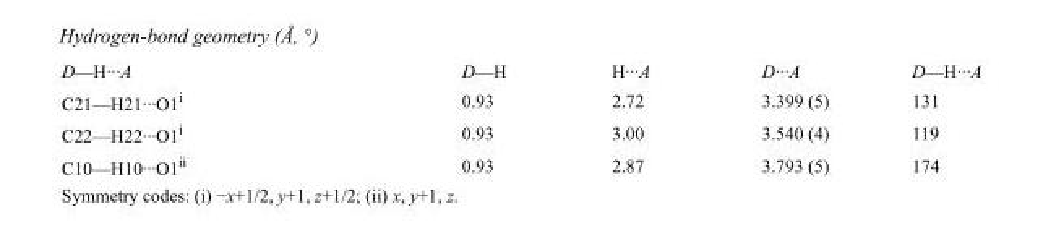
<table><tbody><tr><td>D—H···A</td><td>D—H</td><td>H···A</td><td>D···A</td><td>D—H···A</td></tr><tr><td>C21—H21···O1<sup>i</sup></td><td>0.93</td><td>2.72</td><td>3.399 (5)</td><td>131</td></tr><tr><td>C22—H22···O1<sup>i</sup></td><td>0.93</td><td>3.00</td><td>3.540 (4)</td><td>119</td></tr><tr><td>C10—H10···O1<sup>ii</sup></td><td>0.93</td><td>2.87</td><td>3.793 (5)</td><td>174</td></tr></tbody></table>